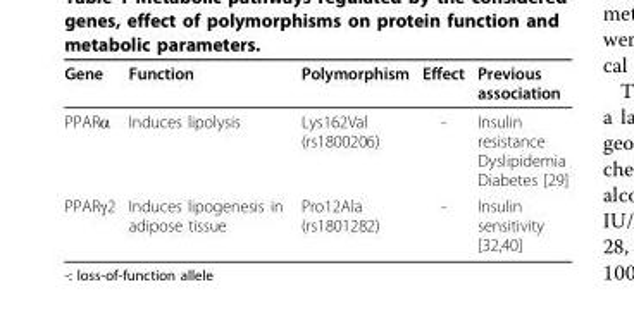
<table><thead><tr><td>Gene</td><td>Function</td><td>Polymorphism</td><td>Effect</td><td>Previous association</td></tr></thead><tbody><tr><td>PPARα</td><td>Induces lipolysis</td><td>Lys162Val (rs1800206)</td><td>-</td><td>Insulin resistance Dyslipidemia Diabetes [29]</td></tr><tr><td>PPARγ2</td><td>Induces lipogenesis in adipose tissue</td><td>Pro12Ala (rs1801282)</td><td>-</td><td>Insulin sensitivity [32,40]</td></tr></tbody></table>